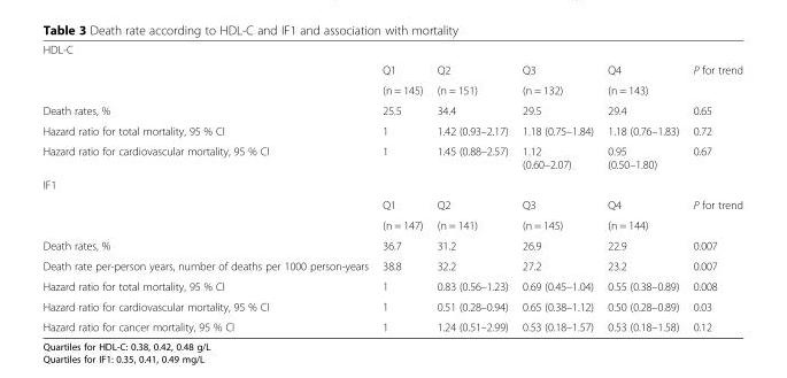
<table><tbody><tr><td colspan="6">HDL-C</td></tr><tr><td rowspan="2"></td><td>Q1</td><td>Q2</td><td>Q3</td><td>Q4</td><td rowspan="2">P for trend</td></tr><tr><td>(n = 145)</td><td>(n = 151)</td><td>(n = 132)</td><td>(n = 143)</td></tr><tr><td>Death rates, %</td><td>25.5</td><td>34.4</td><td>29.5</td><td>29.4</td><td>0.65</td></tr><tr><td>Hazard ratio for total mortality, 95 % CI</td><td>1</td><td>1.42 (0.93–2.17)</td><td>1.18 (0.75–1.84)</td><td>1.18 (0.76–1.83)</td><td>0.72</td></tr><tr><td>Hazard ratio for cardiovascular mortality, 95 % CI</td><td>1</td><td>1.45 (0.88–2.57)</td><td>1.12 (0.60–2.07)</td><td>0.95 (0.50–1.80)</td><td>0.67</td></tr><tr><td colspan="6">IF1</td></tr><tr><td rowspan="2"></td><td>Q1</td><td>Q2</td><td>Q3</td><td>Q4</td><td rowspan="2">P for trend</td></tr><tr><td>(n = 147)</td><td>(n = 141)</td><td>(n = 145)</td><td>(n = 144)</td></tr><tr><td>Death rates, %</td><td>36.7</td><td>31.2</td><td>26.9</td><td>22.9</td><td>0.007</td></tr><tr><td>Death rate per-person years, number of deaths per 1000 person-years</td><td>38.8</td><td>32.2</td><td>27.2</td><td>23.2</td><td>0.007</td></tr><tr><td>Hazard ratio for total mortality, 95 % CI</td><td>1</td><td>0.83 (0.56–1.23)</td><td>0.69 (0.45–1.04)</td><td>0.55 (0.38–0.89)</td><td>0.008</td></tr><tr><td>Hazard ratio for cardiovascular mortality, 95 % CI</td><td>1</td><td>0.51 (0.28–0.94)</td><td>0.65 (0.38–1.12)</td><td>0.50 (0.28–0.89)</td><td>0.03</td></tr><tr><td>Hazard ratio for cancer mortality, 95 % CI</td><td>1</td><td>1.24 (0.51–2.99)</td><td>0.53 (0.18–1.57)</td><td>0.53 (0.18–1.58)</td><td>0.12</td></tr></tbody></table>